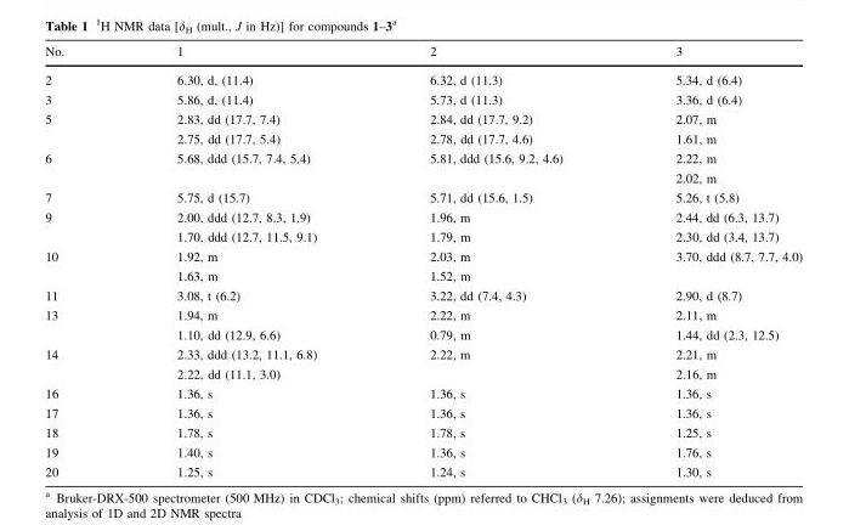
<table><thead><tr><td>No.</td><td>1</td><td>2</td><td>3</td></tr></thead><tbody><tr><td>2</td><td>6.30, d, (11.4)</td><td>6.32, d (11.3)</td><td>5.34, d (6.4)</td></tr><tr><td>3</td><td>5.86, d, (11.4)</td><td>5.73, d (11.3)</td><td>3.36, d (6.4)</td></tr><tr><td>5</td><td>2.83, dd (17.7, 7.4) 2.75, dd (17.7, 5.4)</td><td>2.84, dd (17.7, 9.2) 2.78, dd (17.7, 4.6)</td><td>2.07, m 1.61, m</td></tr><tr><td>6</td><td>5.68, ddd (15.7, 7.4, 5.4)</td><td>5.81, ddd (15.6, 9.2, 4.6)</td><td>2.22, m 2.02, m</td></tr><tr><td>7</td><td>5.75, d (15.7)</td><td>5.71, dd (15.6, 1.5)</td><td>5.26, t (5.8)</td></tr><tr><td>9</td><td>2.00, ddd (12.7, 8.3, 1.9) 1.70, ddd (12.7, 11.5, 9.1)</td><td>1.96, m 1.79, m</td><td>2.44, dd (6.3, 13.7) 2.30, dd (3.4, 13.7)</td></tr><tr><td>10</td><td>1.92, m 1.63, m</td><td>2.03, m 1.52, m</td><td>3.70, ddd (8.7, 7.7, 4.0)</td></tr><tr><td>11</td><td>3.08, t (6.2)</td><td>3.22, dd (7.4, 4.3)</td><td>2.90, d (8.7)</td></tr><tr><td>13</td><td>1.94, m 1.10, dd (12.9, 6.6)</td><td>2.22, m 0.79, m</td><td>2.11, m 1.44, dd (2.3, 12.5)</td></tr><tr><td>14</td><td>2.33, ddd (13.2, 11.1, 6.8) 2.22, dd (11.1, 3.0)</td><td>2.22, m</td><td>2.21, m 2.16, m</td></tr><tr><td>16</td><td>1.36, s</td><td>1.36, s</td><td>1.36, s</td></tr><tr><td>17</td><td>1.36, s</td><td>1.36, s</td><td>1.36, s</td></tr><tr><td>18</td><td>1.78, s</td><td>1.78, s</td><td>1.25, s</td></tr><tr><td>19</td><td>1.40, s</td><td>1.36, s</td><td>1.76, s</td></tr><tr><td>20</td><td>1.25, s</td><td>1.24, s</td><td>1.30, s</td></tr></tbody></table>